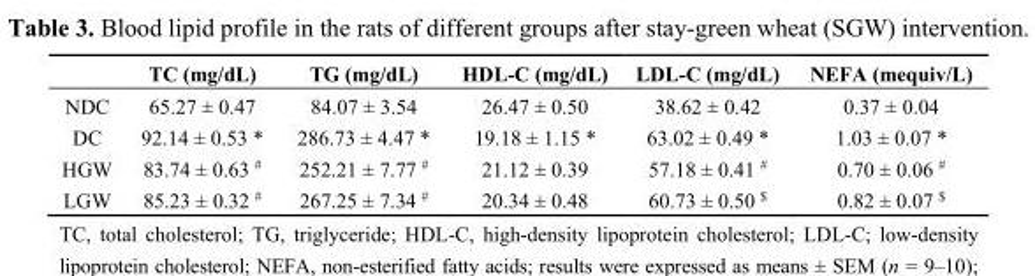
<table><thead><tr><td></td><td>TC (mg/dL)</td><td>TG (mg/dL)</td><td>HDL-C (mg/dL)</td><td>LDL-C (mg/dL)</td><td>NEFA (mequiv/L)</td></tr></thead><tbody><tr><td>NDC</td><td>65.27 ± 0.47</td><td>84.07 ± 3.54</td><td>26.47 ± 0.50</td><td>38.62 ± 0.42</td><td>0.37 ± 0.04</td></tr><tr><td>DC</td><td>92.14 ± 0.53 *</td><td>286.73 ± 4.47 *</td><td>19.18 ± 1.15 *</td><td>63.02 ± 0.49 *</td><td>1.03 ± 0.07 *</td></tr><tr><td>HGW</td><td>83.74 ± 0.63 <sup>#</sup></td><td>252.21 ± 7.77 <sup>#</sup></td><td>21.12 ± 0.39</td><td>57.18 ± 0.41 <sup>#</sup></td><td>0.70 ± 0.06 <sup>#</sup></td></tr><tr><td>LGW</td><td>85.23 ± 0.32 <sup>#</sup></td><td>267.25 ± 7.34 <sup>#</sup></td><td>20.34 ± 0.48</td><td>60.73 ± 0.50 <sup>$</sup></td><td>0.82 ± 0.07 <sup>$</sup></td></tr></tbody></table>